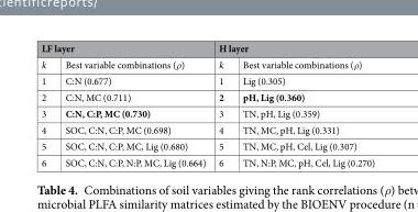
<table><thead><tr><td colspan="2">LF layer</td><td colspan="2">H layer</td></tr><tr><td>k</td><td>Best variable combinations (ρ)</td><td>k</td><td>Best variable combinations (ρ)</td></tr></thead><tbody><tr><td>1</td><td>C:N (0.677)</td><td>1</td><td>Lig (0.305)</td></tr><tr><td>2</td><td>C:N, MC (0.711)</td><td>2</td><td>pH, Lig (0.360)</td></tr><tr><td>3</td><td>C:N, C:P, MC (0.730)</td><td>3</td><td>TN, pH, Lig (0.359)</td></tr><tr><td>4</td><td>SOC, C:N, C:P, MC (0.698)</td><td>4</td><td>TN, MC, pH, Lig (0.331)</td></tr><tr><td>5</td><td>SOC, C:N, C:P, MC, Lig (0.680)</td><td>5</td><td>TN, MC, pH, Cel, Lig (0.307)</td></tr><tr><td>6</td><td>SOC, C:N, C:P, N:P, MC, Lig (0.664)</td><td>6</td><td>TN, N:P, MC, pH, Cel, Lig (0.270)</td></tr></tbody></table>